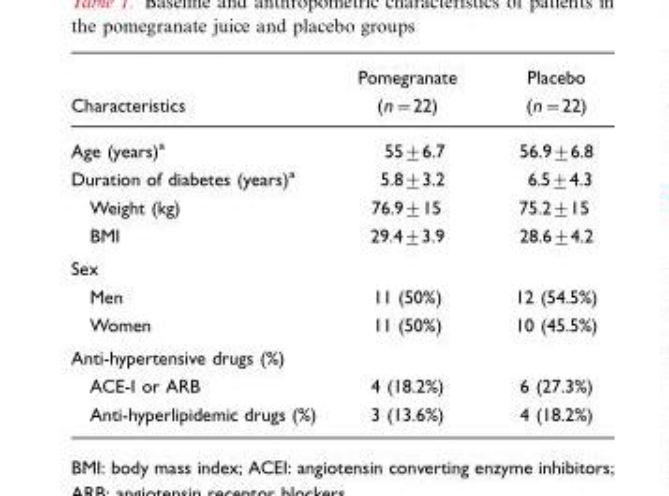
<table><thead><tr><td>Characteristics</td><td>Pomegranate (n=22)</td><td>Placebo (n=22)</td></tr></thead><tbody><tr><td>Age (years)<sup>a</sup></td><td>55±6.7</td><td>56.9±6.8</td></tr><tr><td>Duration of diabetes (years)<sup>a</sup></td><td>5.8±3.2</td><td>6.5±4.3</td></tr><tr><td>Weight (kg)</td><td>76.9±15</td><td>75.2±15</td></tr><tr><td>BMI</td><td>29.4±3.9</td><td>28.6±4.2</td></tr><tr><td colspan="3">Sex</td></tr><tr><td>Men</td><td>11 (50%)</td><td>12 (54.5%)</td></tr><tr><td>Women</td><td>11 (50%)</td><td>10 (45.5%)</td></tr><tr><td colspan="3">Anti-hypertensive drugs (%)</td></tr><tr><td>ACE-I or ARB</td><td>4 (18.2%)</td><td>6 (27.3%)</td></tr><tr><td>Anti-hyperlipidemic drugs (%)</td><td>3 (13.6%)</td><td>4 (18.2%)</td></tr></tbody></table>